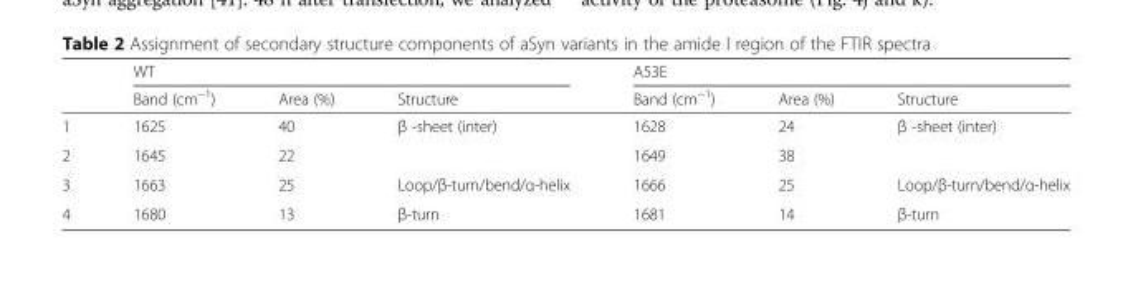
<table><thead><tr><td rowspan="2"></td><td colspan="3">WT</td><td colspan="3">A53E</td></tr><tr><td>Band (cm<sup>−1</sup>)</td><td>Area (%)</td><td>Structure</td><td>Band (cm<sup>−1</sup>)</td><td>Area (%)</td><td>Structure</td></tr></thead><tbody><tr><td>1</td><td>1625</td><td>40</td><td>β -sheet (inter)</td><td>1628</td><td>24</td><td>β -sheet (inter)</td></tr><tr><td>2</td><td>1645</td><td>22</td><td></td><td>1649</td><td>38</td><td></td></tr><tr><td>3</td><td>1663</td><td>25</td><td>Loop/β-turn/bend/α-helix</td><td>1666</td><td>25</td><td>Loop/β-turn/bend/α-helix</td></tr><tr><td>4</td><td>1680</td><td>13</td><td>β-turn</td><td>1681</td><td>14</td><td>β-turn</td></tr></tbody></table>